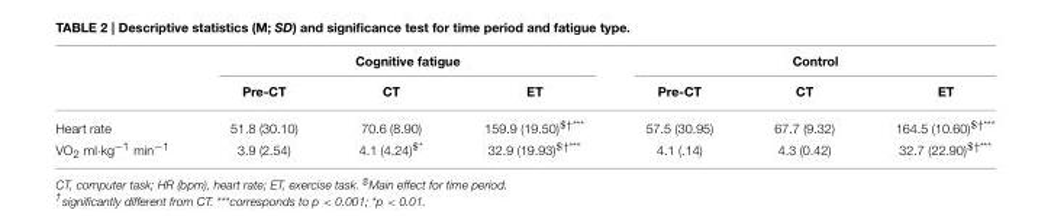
<table><thead><tr><td rowspan="2"></td><td colspan="3">Cognitive fatigue</td><td colspan="3">Control</td></tr><tr><td>Pre-CT</td><td>CT</td><td>ET</td><td>Pre-CT</td><td>CT</td><td>ET</td></tr></thead><tbody><tr><td>Heart rate</td><td>51.8 (30.10)</td><td>70.6 (8.90)</td><td>159.9 (19.50)<sup>$†***</sup></td><td>57.5 (30.95)</td><td>67.7 (9.32)</td><td>164.5 (10.60)<sup>$†***</sup></td></tr><tr><td>VO<sub>2</sub> ml·kg<sup>−1</sup> min<sup>−1</sup></td><td>3.9 (2.54)</td><td>4.1 (4.24)<sup>$*</sup></td><td>32.9 (19.93)<sup>$†***</sup></td><td>4.1 (.14)</td><td>4.3 (0.42)</td><td>32.7 (22.90)<sup>$†***</sup></td></tr></tbody></table>